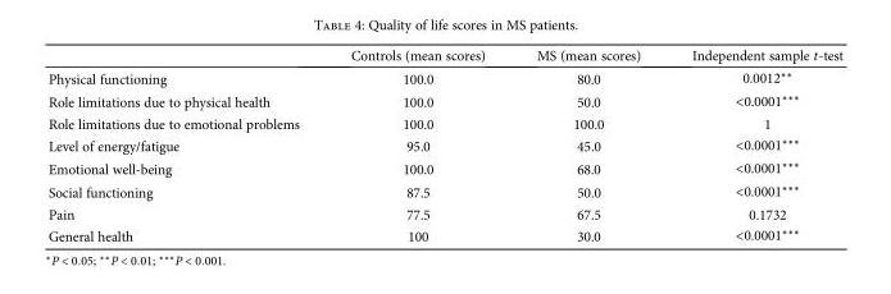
<table><thead><tr><td></td><td>Controls (mean scores)</td><td>MS (mean scores)</td><td>Independent sample t-test</td></tr></thead><tbody><tr><td>Physical functioning</td><td>100.0</td><td>80.0</td><td>0.0012∗∗</td></tr><tr><td>Role limitations due to physical health</td><td>100.0</td><td>50.0</td><td>&lt;0.0001∗∗∗</td></tr><tr><td>Role limitations due to emotional problems</td><td>100.0</td><td>100.0</td><td>1</td></tr><tr><td>Level of energy/fatigue</td><td>95.0</td><td>45.0</td><td>&lt;0.0001∗∗∗</td></tr><tr><td>Emotional well-being</td><td>100.0</td><td>68.0</td><td>&lt;0.0001∗∗∗</td></tr><tr><td>Social functioning</td><td>87.5</td><td>50.0</td><td>&lt;0.0001∗∗∗</td></tr><tr><td>Pain</td><td>77.5</td><td>67.5</td><td>0.1732</td></tr><tr><td>General health</td><td>100</td><td>30.0</td><td>&lt;0.0001∗∗∗</td></tr></tbody></table>